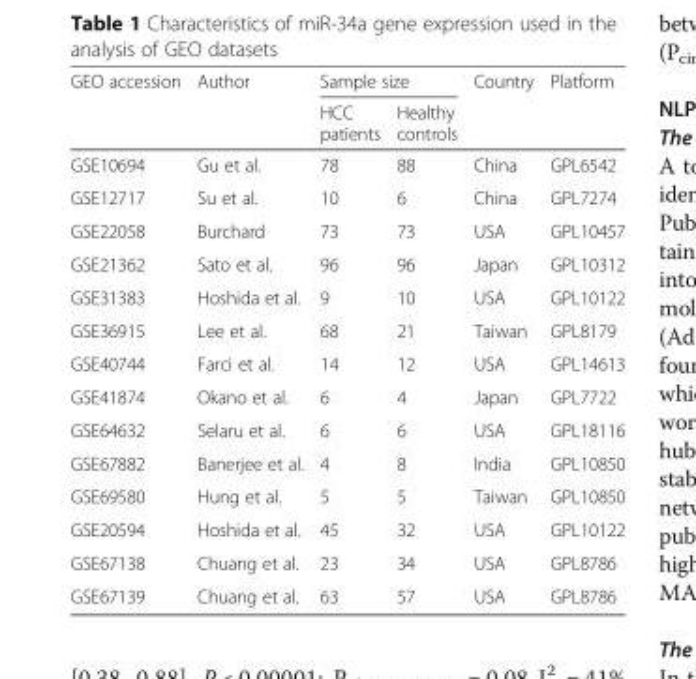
<table><thead><tr><td rowspan="2">GEO accession</td><td rowspan="2">Author</td><td colspan="2">Sample size</td><td rowspan="2">Country</td><td rowspan="2">Platform</td></tr><tr><td>HCC patients</td><td>Healthy controls</td></tr></thead><tbody><tr><td>GSE10694</td><td>Gu et al.</td><td>78</td><td>88</td><td>China</td><td>GPL6542</td></tr><tr><td>GSE12717</td><td>Su et al.</td><td>10</td><td>6</td><td>China</td><td>GPL7274</td></tr><tr><td>GSE22058</td><td>Burchard</td><td>73</td><td>73</td><td>USA</td><td>GPL10457</td></tr><tr><td>GSE21362</td><td>Sato et al.</td><td>96</td><td>96</td><td>Japan</td><td>GPL10312</td></tr><tr><td>GSE31383</td><td>Hoshida et al.</td><td>9</td><td>10</td><td>USA</td><td>GPL10122</td></tr><tr><td>GSE36915</td><td>Lee et al.</td><td>68</td><td>21</td><td>Taiwan</td><td>GPL8179</td></tr><tr><td>GSE40744</td><td>Farci et al.</td><td>14</td><td>12</td><td>USA</td><td>GPL14613</td></tr><tr><td>GSE41874</td><td>Okano et al.</td><td>6</td><td>4</td><td>Japan</td><td>GPL7722</td></tr><tr><td>GSE64632</td><td>Selaru et al.</td><td>6</td><td>6</td><td>USA</td><td>GPL18116</td></tr><tr><td>GSE67882</td><td>Banerjee et al.</td><td>4</td><td>8</td><td>India</td><td>GPL10850</td></tr><tr><td>GSE69580</td><td>Hung et al.</td><td>5</td><td>5</td><td>Taiwan</td><td>GPL10850</td></tr><tr><td>GSE20594</td><td>Hoshida et al.</td><td>45</td><td>32</td><td>USA</td><td>GPL10122</td></tr><tr><td>GSE67138</td><td>Chuang et al.</td><td>23</td><td>34</td><td>USA</td><td>GPL8786</td></tr><tr><td>GSE67139</td><td>Chuang et al.</td><td>63</td><td>57</td><td>USA</td><td>GPL8786</td></tr></tbody></table>